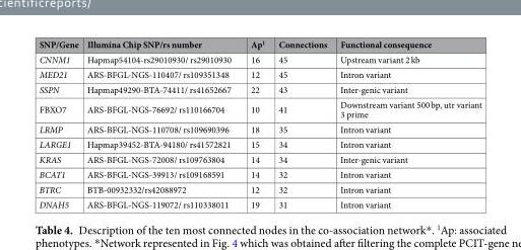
<table><thead><tr><td>SNP/Gene</td><td>Illumina Chip SNP/rs number</td><td>Ap<sup>1</sup></td><td>Connections</td><td>Functional consequence</td></tr></thead><tbody><tr><td>CNNM1</td><td>Hapmap54104-rs29010930/ rs29010930</td><td>16</td><td>45</td><td>Upstream variant 2 kb</td></tr><tr><td>MED21</td><td>ARS-BFGL-NGS-110407/ rs109351348</td><td>12</td><td>45</td><td>Intron variant</td></tr><tr><td>SSPN</td><td>Hapmap49290-BTA-74411/ rs41652667</td><td>22</td><td>43</td><td>Inter-genic variant</td></tr><tr><td>FBXO7</td><td>ARS-BFGL-NGS-76692/ rs110166704</td><td>10</td><td>41</td><td>Downstream variant 500 bp, utr variant 3 prime</td></tr><tr><td>LRMP</td><td>ARS-BFGL-NGS-110708/ rs109690396</td><td>18</td><td>35</td><td>Intron variant</td></tr><tr><td>LARGE1</td><td>Hapmap39452-BTA-94180/ rs41572821</td><td>15</td><td>34</td><td>Intron variant</td></tr><tr><td>KRAS</td><td>ARS-BFGL-NGS-72008/ rs109763804</td><td>14</td><td>34</td><td>Inter-genic variant</td></tr><tr><td>BCAT1</td><td>ARS-BFGL-NGS-39913/ rs109168591</td><td>14</td><td>32</td><td>Intron variant</td></tr><tr><td>BTRC</td><td>BTB-00932332/rs42088972</td><td>12</td><td>32</td><td>Intron variant</td></tr><tr><td>DNAH5</td><td>ARS-BFGL-NGS-119072/ rs110338011</td><td>19</td><td>31</td><td>Intron variant</td></tr></tbody></table>